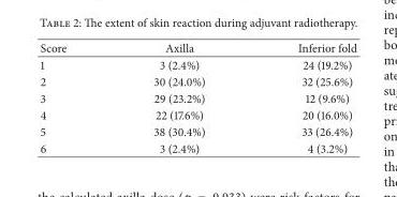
<table><thead><tr><td>Score</td><td>Axilla</td><td>Inferior fold</td></tr></thead><tbody><tr><td>1</td><td>3 (2.4%)</td><td>24 (19.2%)</td></tr><tr><td>2</td><td>30 (24.0%)</td><td>32 (25.6%)</td></tr><tr><td>3</td><td>29 (23.2%)</td><td>12 (9.6%)</td></tr><tr><td>4</td><td>22 (17.6%)</td><td>20 (16.0%)</td></tr><tr><td>5</td><td>38 (30.4%)</td><td>33 (26.4%)</td></tr><tr><td>6</td><td>3 (2.4%)</td><td>4 (3.2%)</td></tr></tbody></table>